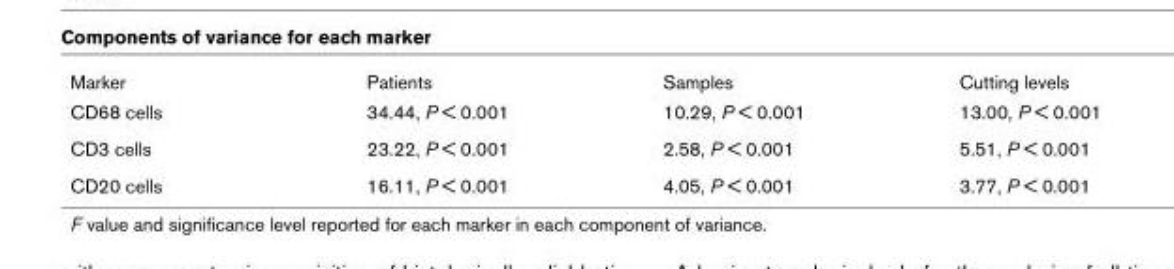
<table><tbody><tr><td>Marker</td><td>Patients</td><td>Samples</td><td>Cutting levels</td></tr><tr><td>CD68 cells</td><td>34.44, P &lt; 0.001</td><td>10.29, P &lt; 0.001</td><td>13.00, P &lt; 0.001</td></tr><tr><td>CD3 cells</td><td>23.22, P &lt; 0.001</td><td>2.58, P &lt; 0.001</td><td>5.51, P &lt; 0.001</td></tr><tr><td>CD20 cells</td><td>16.11, P &lt; 0.001</td><td>4.05, P &lt; 0.001</td><td>3.77, P &lt; 0.001</td></tr></tbody></table>